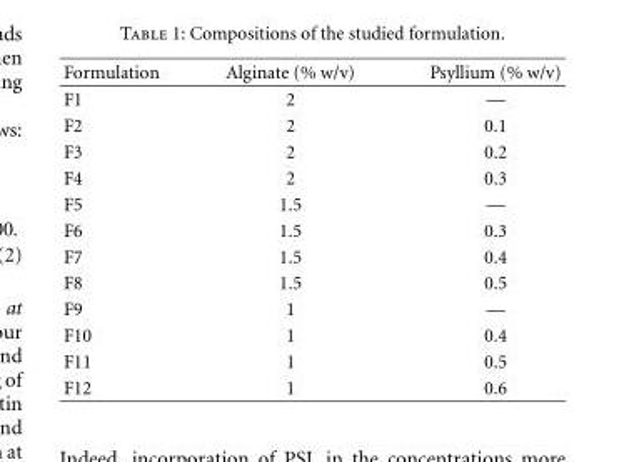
<table><thead><tr><td>Formulation</td><td>Alginate (% w/v)</td><td>Psyllium (% w/v)</td></tr></thead><tbody><tr><td>F1</td><td>2</td><td>—</td></tr><tr><td>F2</td><td>2</td><td>0.1</td></tr><tr><td>F3</td><td>2</td><td>0.2</td></tr><tr><td>F4</td><td>2</td><td>0.3</td></tr><tr><td>F5</td><td>1.5</td><td>—</td></tr><tr><td>F6</td><td>1.5</td><td>0.3</td></tr><tr><td>F7</td><td>1.5</td><td>0.4</td></tr><tr><td>F8</td><td>1.5</td><td>0.5</td></tr><tr><td>F9</td><td>1</td><td>—</td></tr><tr><td>F10</td><td>1</td><td>0.4</td></tr><tr><td>F11</td><td>1</td><td>0.5</td></tr><tr><td>F12</td><td>1</td><td>0.6</td></tr></tbody></table>